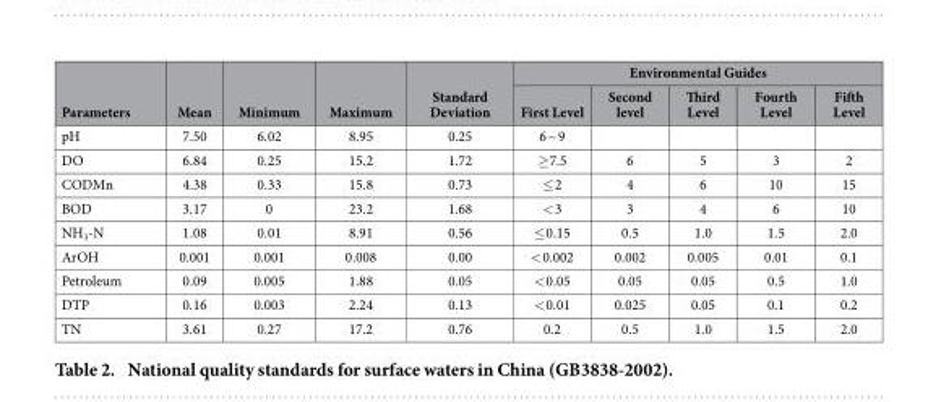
<table><thead><tr><td rowspan="2">Parameters</td><td rowspan="2">Mean</td><td rowspan="2">Minimum</td><td rowspan="2">Maximum</td><td rowspan="2">Standard Deviation</td><td colspan="5">Environmental Guides</td></tr><tr><td>First Level</td><td>Second level</td><td>Third Level</td><td>Fourth Level</td><td>Fifth Level</td></tr></thead><tbody><tr><td>pH</td><td>7.50</td><td>6.02</td><td>8.95</td><td>0.25</td><td>6 ~ 9</td><td></td><td></td><td></td><td></td></tr><tr><td>DO</td><td>6.84</td><td>0.25</td><td>15.2</td><td>1.72</td><td>≥ 7.5</td><td>6</td><td>5</td><td>3</td><td>2</td></tr><tr><td>CODMn</td><td>4.38</td><td>0.33</td><td>15.8</td><td>0.73</td><td>≤ 2</td><td>4</td><td>6</td><td>10</td><td>15</td></tr><tr><td>BOD</td><td>3.17</td><td>0</td><td>23.2</td><td>1.68</td><td>&lt; 3</td><td>3</td><td>4</td><td>6</td><td>10</td></tr><tr><td>NH<sub>3</sub>-N</td><td>1.08</td><td>0.01</td><td>8.91</td><td>0.56</td><td>≤ 0.15</td><td>0.5</td><td>1.0</td><td>1.5</td><td>2.0</td></tr><tr><td>ArOH</td><td>0.001</td><td>0.001</td><td>0.008</td><td>0.00</td><td>&lt; 0.002</td><td>0.002</td><td>0.005</td><td>0.01</td><td>0.1</td></tr><tr><td>Petroleum</td><td>0.09</td><td>0.005</td><td>1.88</td><td>0.05</td><td>&lt; 0.05</td><td>0.05</td><td>0.05</td><td>0.5</td><td>1.0</td></tr><tr><td>DTP</td><td>0.16</td><td>0.003</td><td>2.24</td><td>0.13</td><td>&lt; 0.01</td><td>0.025</td><td>0.05</td><td>0.1</td><td>0.2</td></tr><tr><td>TN</td><td>3.61</td><td>0.27</td><td>17.2</td><td>0.76</td><td>0.2</td><td>0.5</td><td>1.0</td><td>1.5</td><td>2.0</td></tr></tbody></table>